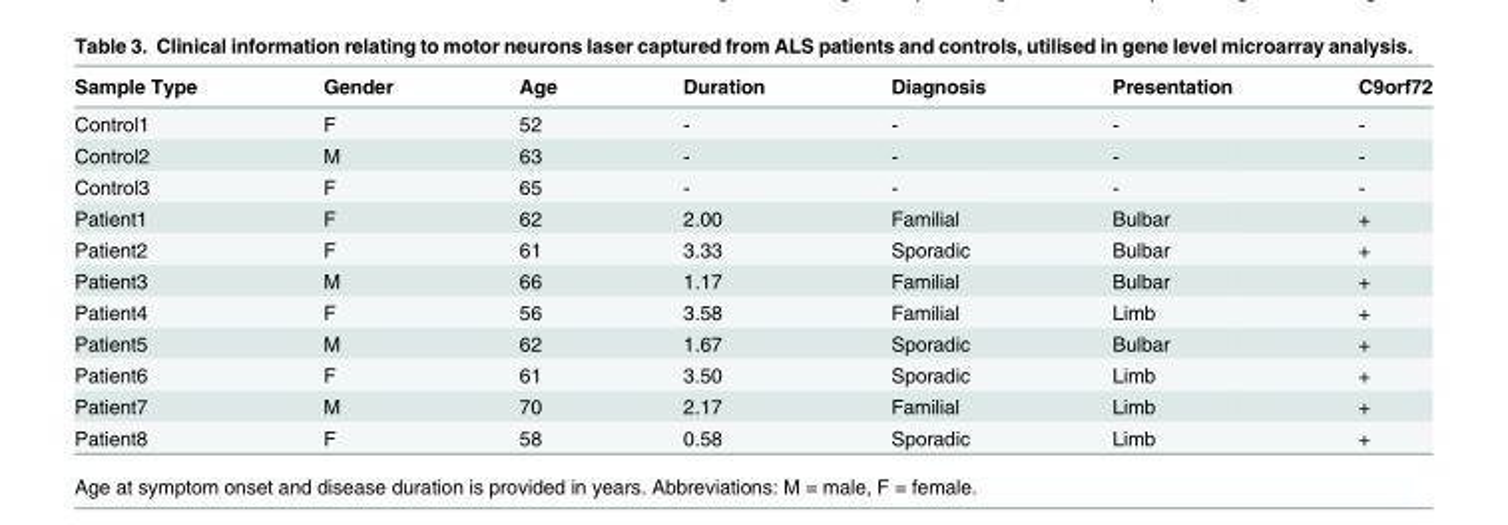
<table><thead><tr><td>Sample Type</td><td>Gender</td><td>Age</td><td>Duration</td><td>Diagnosis</td><td>Presentation</td><td>C9orf72</td></tr></thead><tbody><tr><td>Control1</td><td>F</td><td>52</td><td>-</td><td>-</td><td>-</td><td>-</td></tr><tr><td>Control2</td><td>M</td><td>63</td><td>-</td><td>-</td><td>-</td><td>-</td></tr><tr><td>Control3</td><td>F</td><td>65</td><td>-</td><td>-</td><td>-</td><td>-</td></tr><tr><td>Patient1</td><td>F</td><td>62</td><td>2.00</td><td>Familial</td><td>Bulbar</td><td>+</td></tr><tr><td>Patient2</td><td>F</td><td>61</td><td>3.33</td><td>Sporadic</td><td>Bulbar</td><td>+</td></tr><tr><td>Patient3</td><td>M</td><td>66</td><td>1.17</td><td>Familial</td><td>Bulbar</td><td>+</td></tr><tr><td>Patient4</td><td>F</td><td>56</td><td>3.58</td><td>Familial</td><td>Limb</td><td>+</td></tr><tr><td>Patient5</td><td>M</td><td>62</td><td>1.67</td><td>Sporadic</td><td>Bulbar</td><td>+</td></tr><tr><td>Patient6</td><td>F</td><td>61</td><td>3.50</td><td>Sporadic</td><td>Limb</td><td>+</td></tr><tr><td>Patient7</td><td>M</td><td>70</td><td>2.17</td><td>Familial</td><td>Limb</td><td>+</td></tr><tr><td>Patient8</td><td>F</td><td>58</td><td>0.58</td><td>Sporadic</td><td>Limb</td><td>+</td></tr></tbody></table>